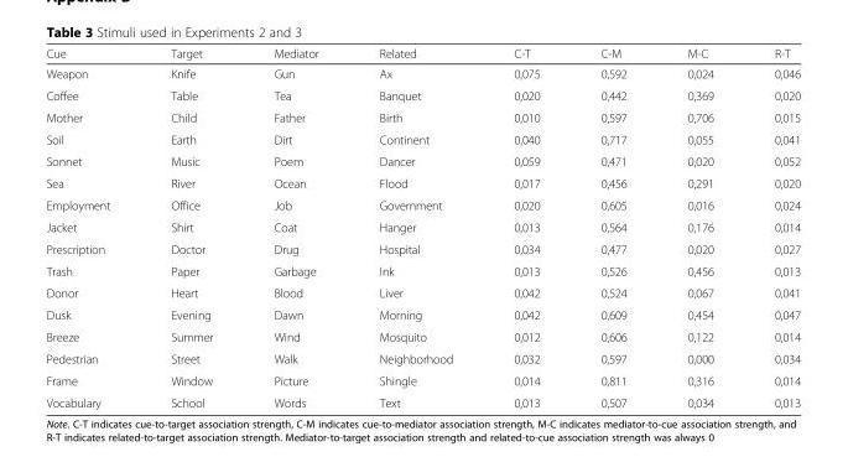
<table><thead><tr><td>Cue</td><td>Target</td><td>Mediator</td><td>Related</td><td>C-T</td><td>C-M</td><td>M-C</td><td>R-T</td></tr></thead><tbody><tr><td>Weapon</td><td>Knife</td><td>Gun</td><td>Ax</td><td>0,075</td><td>0,592</td><td>0,024</td><td>0,046</td></tr><tr><td>Coffee</td><td>Table</td><td>Tea</td><td>Banquet</td><td>0,020</td><td>0,442</td><td>0,369</td><td>0,020</td></tr><tr><td>Mother</td><td>Child</td><td>Father</td><td>Birth</td><td>0,010</td><td>0,597</td><td>0,706</td><td>0,015</td></tr><tr><td>Soil</td><td>Earth</td><td>Dirt</td><td>Continent</td><td>0,040</td><td>0,717</td><td>0,055</td><td>0,041</td></tr><tr><td>Sonnet</td><td>Music</td><td>Poem</td><td>Dancer</td><td>0,059</td><td>0,471</td><td>0,020</td><td>0,052</td></tr><tr><td>Sea</td><td>River</td><td>Ocean</td><td>Flood</td><td>0,017</td><td>0,456</td><td>0,291</td><td>0,020</td></tr><tr><td>Employment</td><td>Office</td><td>Job</td><td>Government</td><td>0,020</td><td>0,605</td><td>0,016</td><td>0,024</td></tr><tr><td>Jacket</td><td>Shirt</td><td>Coat</td><td>Hanger</td><td>0,013</td><td>0,564</td><td>0,176</td><td>0,014</td></tr><tr><td>Prescription</td><td>Doctor</td><td>Drug</td><td>Hospital</td><td>0,034</td><td>0,477</td><td>0,020</td><td>0,027</td></tr><tr><td>Trash</td><td>Paper</td><td>Garbage</td><td>Ink</td><td>0,013</td><td>0,526</td><td>0,456</td><td>0,013</td></tr><tr><td>Donor</td><td>Heart</td><td>Blood</td><td>Liver</td><td>0,042</td><td>0,524</td><td>0,067</td><td>0,041</td></tr><tr><td>Dusk</td><td>Evening</td><td>Dawn</td><td>Morning</td><td>0,042</td><td>0,609</td><td>0,454</td><td>0,047</td></tr><tr><td>Breeze</td><td>Summer</td><td>Wind</td><td>Mosquito</td><td>0,012</td><td>0,606</td><td>0,122</td><td>0,014</td></tr><tr><td>Pedestrian</td><td>Street</td><td>Walk</td><td>Neighborhood</td><td>0,032</td><td>0,597</td><td>0,000</td><td>0,034</td></tr><tr><td>Frame</td><td>Window</td><td>Picture</td><td>Shingle</td><td>0,014</td><td>0,811</td><td>0,316</td><td>0,014</td></tr><tr><td>Vocabulary</td><td>School</td><td>Words</td><td>Text</td><td>0,013</td><td>0,507</td><td>0,034</td><td>0,013</td></tr></tbody></table>